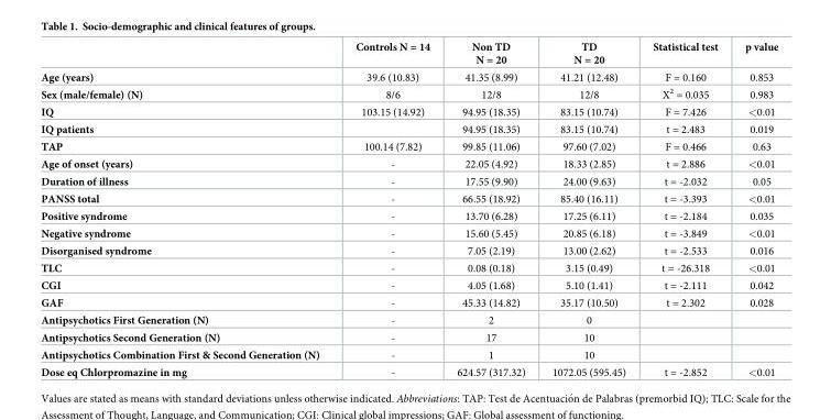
<table><thead><tr><td></td><td>Controls N = 14</td><td>Non TD N = 20</td><td>TD N = 20</td><td>Statistical test</td><td>p value</td></tr></thead><tbody><tr><td>Age (years)</td><td>39.6 (10.83)</td><td>41.35 (8.99)</td><td>41.21 (12.48)</td><td>F = 0.160</td><td>0.853</td></tr><tr><td>Sex (male/female) (N)</td><td>8/6</td><td>12/8</td><td>12/8</td><td>X<sup>2</sup> = 0.035</td><td>0.983</td></tr><tr><td>IQ</td><td>103.15 (14.92)</td><td>94.95 (18.35)</td><td>83.15 (10.74)</td><td>F = 7.426</td><td>&lt;0.01</td></tr><tr><td>IQ patients</td><td></td><td>94.95 (18.35)</td><td>83.15 (10.74)</td><td>t = 2.483</td><td>0.019</td></tr><tr><td>TAP</td><td>100.14 (7.82)</td><td>99.85 (11.06)</td><td>97.60 (7.02)</td><td>F = 0.466</td><td>0.63</td></tr><tr><td>Age of onset (years)</td><td>-</td><td>22.05 (4.92)</td><td>18.33 (2.85)</td><td>t = 2.886</td><td>&lt;0.01</td></tr><tr><td>Duration of illness</td><td>-</td><td>17.55 (9.90)</td><td>24.00 (9.63)</td><td>t = -2.032</td><td>0.05</td></tr><tr><td>PANSS total</td><td>-</td><td>66.55 (18.92)</td><td>85.40 (16.11)</td><td>t = -3.393</td><td>&lt;0.01</td></tr><tr><td>Positive syndrome</td><td>-</td><td>13.70 (6.28)</td><td>17.25 (6.11)</td><td>t = -2.184</td><td>0.035</td></tr><tr><td>Negative syndrome</td><td>-</td><td>15.60 (5.45)</td><td>20.85 (6.18)</td><td>t = -3.849</td><td>&lt;0.01</td></tr><tr><td>Disorganised syndrome</td><td>-</td><td>7.05 (2.19)</td><td>13.00 (2.62)</td><td>t = -2.533</td><td>0.016</td></tr><tr><td>TLC</td><td>-</td><td>0.08 (0.18)</td><td>3.15 (0.49)</td><td>t = -26.318</td><td>&lt;0.01</td></tr><tr><td>CGI</td><td>-</td><td>4.05 (1.68)</td><td>5.10 (1.41)</td><td>t = -2.111</td><td>0.042</td></tr><tr><td>GAF</td><td>-</td><td>45.33 (14.82)</td><td>35.17 (10.50)</td><td>t = 2.302</td><td>0.028</td></tr><tr><td>Antipsychotics First Generation (N)</td><td>-</td><td>2</td><td>0</td><td></td><td></td></tr><tr><td>Antipsychotics Second Generation (N)</td><td>-</td><td>17</td><td>10</td><td></td><td></td></tr><tr><td>Antipsychotics Combination First &amp; Second Generation (N)</td><td>-</td><td>1</td><td>10</td><td></td><td></td></tr><tr><td>Dose eq Chlorpromazine in mg</td><td>-</td><td>624.57 (317.32)</td><td>1072.05 (595.45)</td><td>t = -2.852</td><td>&lt;0.01</td></tr></tbody></table>